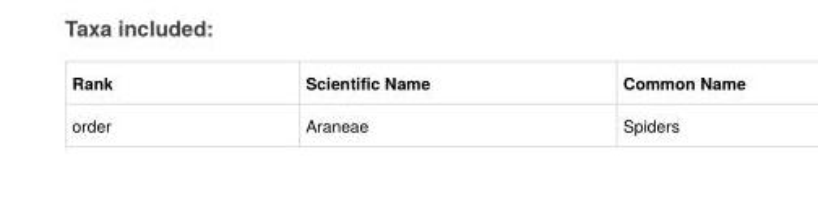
<table><thead><tr><td>Rank</td><td>Scientific Name</td><td>Common Name</td></tr></thead><tbody><tr><td>order</td><td>Araneae</td><td>Spiders</td></tr></tbody></table>